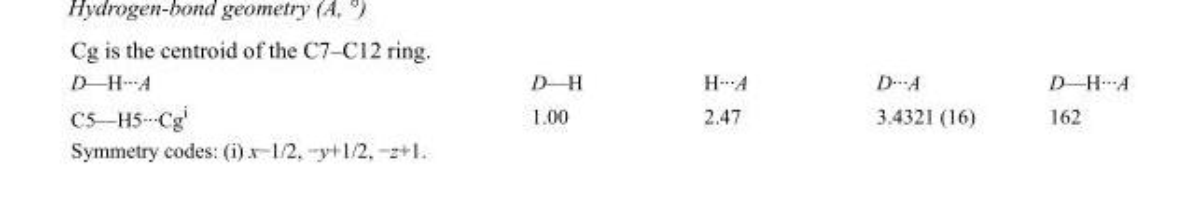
<table><tbody><tr><td>D—H···A</td><td>D—H</td><td>H···A</td><td>D···A</td><td>D—H···A</td></tr><tr><td>C5—H5···Cg<sup>i</sup></td><td>1.00</td><td>2.47</td><td>3.4321 (16)</td><td>162</td></tr></tbody></table>